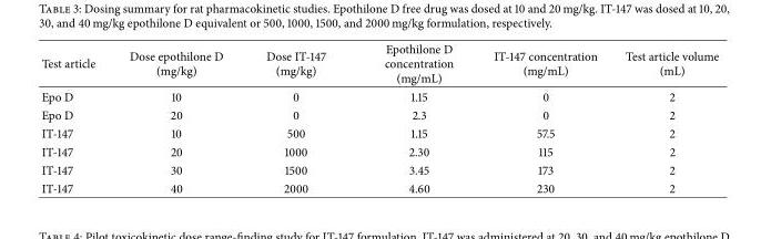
<table><thead><tr><td>Test article</td><td>Dose epothilone D (mg/kg)</td><td>Dose IT-147 (mg/kg)</td><td>Epothilone D concentration (mg/mL)</td><td>IT-147 concentration (mg/mL)</td><td>Test article volume (mL)</td></tr></thead><tbody><tr><td>Epo D</td><td>10</td><td>0</td><td>1.15</td><td>0</td><td>2</td></tr><tr><td>Epo D</td><td>20</td><td>0</td><td>2.3</td><td>0</td><td>2</td></tr><tr><td>IT-147</td><td>10</td><td>500</td><td>1.15</td><td>57.5</td><td>2</td></tr><tr><td>IT-147</td><td>20</td><td>1000</td><td>2.30</td><td>115</td><td>2</td></tr><tr><td>IT-147</td><td>30</td><td>1500</td><td>3.45</td><td>173</td><td>2</td></tr><tr><td>IT-147</td><td>40</td><td>2000</td><td>4.60</td><td>230</td><td>2</td></tr></tbody></table>